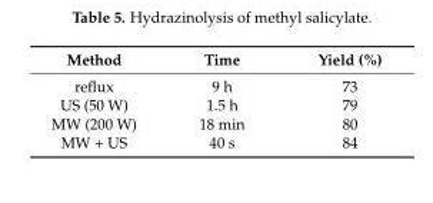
<table><thead><tr><td>Method</td><td>Time</td><td>Yield (%)</td></tr></thead><tbody><tr><td>reflux</td><td>9 h</td><td>73</td></tr><tr><td>US (50 W)</td><td>1.5 h</td><td>79</td></tr><tr><td>MW (200 W)</td><td>18 min</td><td>80</td></tr><tr><td>MW + US</td><td>40 s</td><td>84</td></tr></tbody></table>